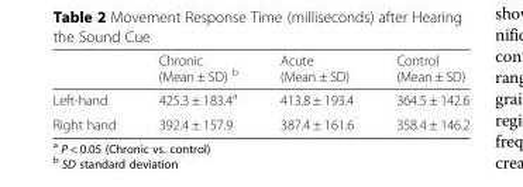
<table><thead><tr><td></td><td>Chronic (Mean ± SD) <sup>b</sup></td><td>Acute (Mean ± SD)</td><td>Control (Mean ± SD)</td></tr></thead><tbody><tr><td>Left-hand</td><td>425.3 ± 183.4<sup>a</sup></td><td>413.8 ± 193.4</td><td>364.5 ± 142.6</td></tr><tr><td>Right hand</td><td>392.4 ± 157.9</td><td>387.4 ± 161.6</td><td>358.4 ± 146.2</td></tr></tbody></table>